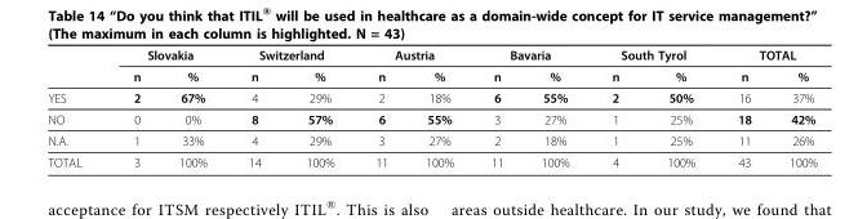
<table><thead><tr><td rowspan="2"></td><td colspan="2">Slovakia</td><td colspan="2">Switzerland</td><td colspan="2">Austria</td><td colspan="2">Bavaria</td><td colspan="2">South Tyrol</td><td colspan="2">TOTAL</td></tr><tr><td>n</td><td>%</td><td>n</td><td>%</td><td>n</td><td>%</td><td>n</td><td>%</td><td>n</td><td>%</td><td>n</td><td>%</td></tr></thead><tbody><tr><td>YES</td><td>2</td><td>67%</td><td>4</td><td>29%</td><td>2</td><td>18%</td><td>6</td><td>55%</td><td>2</td><td>50%</td><td>16</td><td>37%</td></tr><tr><td>NO</td><td>0</td><td>0%</td><td>8</td><td>57%</td><td>6</td><td>55%</td><td>3</td><td>27%</td><td>1</td><td>25%</td><td>18</td><td>42%</td></tr><tr><td>N.A.</td><td>1</td><td>33%</td><td>4</td><td>29%</td><td>3</td><td>27%</td><td>2</td><td>18%</td><td>1</td><td>25%</td><td>11</td><td>26%</td></tr><tr><td>TOTAL</td><td>3</td><td>100%</td><td>14</td><td>100%</td><td>11</td><td>100%</td><td>11</td><td>100%</td><td>4</td><td>100%</td><td>43</td><td>100%</td></tr></tbody></table>